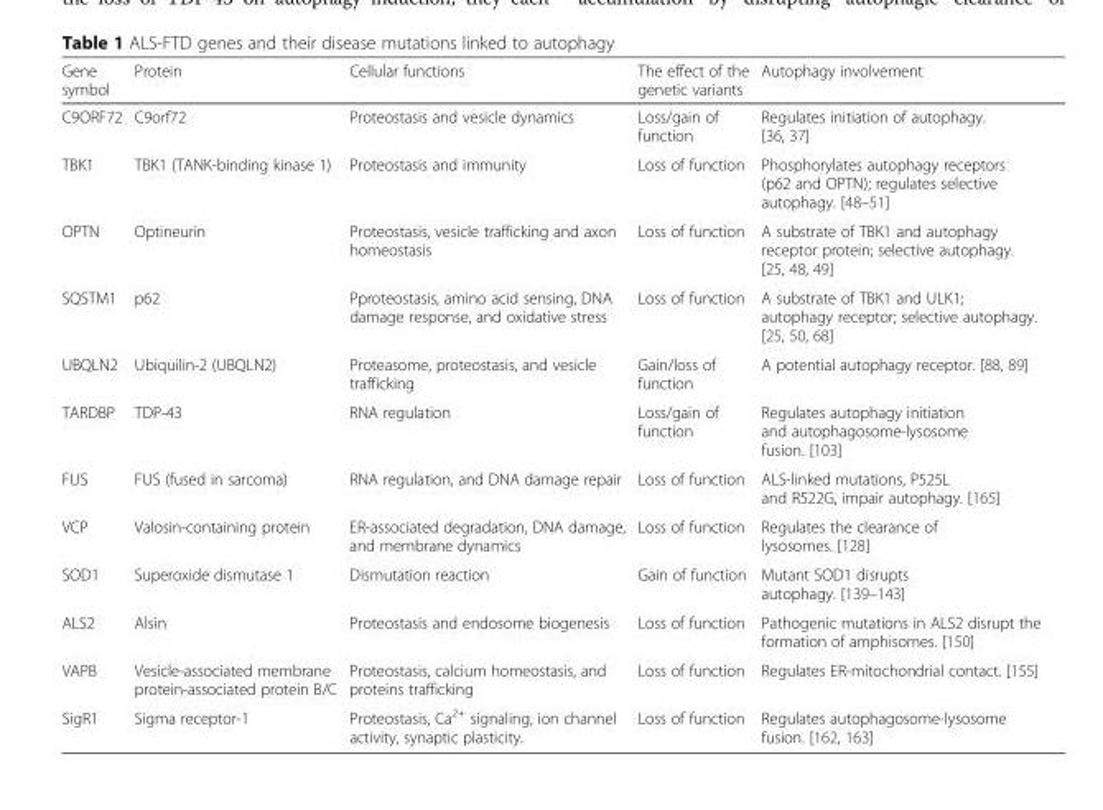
<table><thead><tr><td>Gene symbol</td><td>Protein</td><td>Cellular functions</td><td>The effect of the genetic variants</td><td>Autophagy involvement</td></tr></thead><tbody><tr><td>C9ORF72</td><td>C9orf72</td><td>Proteostasis and vesicle dynamics</td><td>Loss/gain of function</td><td>Regulates initiation of autophagy. [36, 37]</td></tr><tr><td>TBK1</td><td>TBK1 (TANK-binding kinase 1)</td><td>Proteostasis and immunity</td><td>Loss of function</td><td>Phosphorylates autophagy receptors (p62 and OPTN); regulates selective autophagy. [48–51]</td></tr><tr><td>OPTN</td><td>Optineurin</td><td>Proteostasis, vesicle trafficking and axon homeostasis</td><td>Loss of function</td><td>A substrate of TBK1 and autophagy receptor protein; selective autophagy. [25, 48, 49]</td></tr><tr><td>SQSTM1</td><td>p62</td><td>Pproteostasis, amino acid sensing, DNA damage response, and oxidative stress</td><td>Loss of function</td><td>A substrate of TBK1 and ULK1; autophagy receptor; selective autophagy. [25, 50, 68]</td></tr><tr><td>UBQLN2</td><td>Ubiquilin-2 (UBQLN2)</td><td>Proteasome, proteostasis, and vesicle trafficking</td><td>Gain/loss of function</td><td>A potential autophagy receptor. [88, 89]</td></tr><tr><td>TARDBP</td><td>TDP-43</td><td>RNA regulation</td><td>Loss/gain of function</td><td>Regulates autophagy initiation and autophagosome-lysosome fusion. [103]</td></tr><tr><td>FUS</td><td>FUS (fused in sarcoma)</td><td>RNA regulation, and DNA damage repair</td><td>Loss of function</td><td>ALS-linked mutations, P525L and R522G, impair autophagy. [165]</td></tr><tr><td>VCP</td><td>Valosin-containing protein</td><td>ER-associated degradation, DNA damage, and membrane dynamics</td><td>Loss of function</td><td>Regulates the clearance of lysosomes. [128]</td></tr><tr><td>SOD1</td><td>Superoxide dismutase 1</td><td>Dismutation reaction</td><td>Gain of function</td><td>Mutant SOD1 disrupts autophagy. [139–143]</td></tr><tr><td>ALS2</td><td>Alsin</td><td>Proteostasis and endosome biogenesis</td><td>Loss of function</td><td>Pathogenic mutations in ALS2 disrupt the formation of amphisomes. [150]</td></tr><tr><td>VAPB</td><td>Vesicle-associated membrane protein-associated protein B/C</td><td>Proteostasis, calcium homeostasis, and proteins trafficking</td><td>Loss of function</td><td>Regulates ER-mitochondrial contact. [155]</td></tr><tr><td>SigR1</td><td>Sigma receptor-1</td><td>Proteostasis, Ca<sup>2+</sup> signaling, ion channel activity, synaptic plasticity.</td><td>Loss of function</td><td>Regulates autophagosome-lysosome fusion. [162, 163]</td></tr></tbody></table>